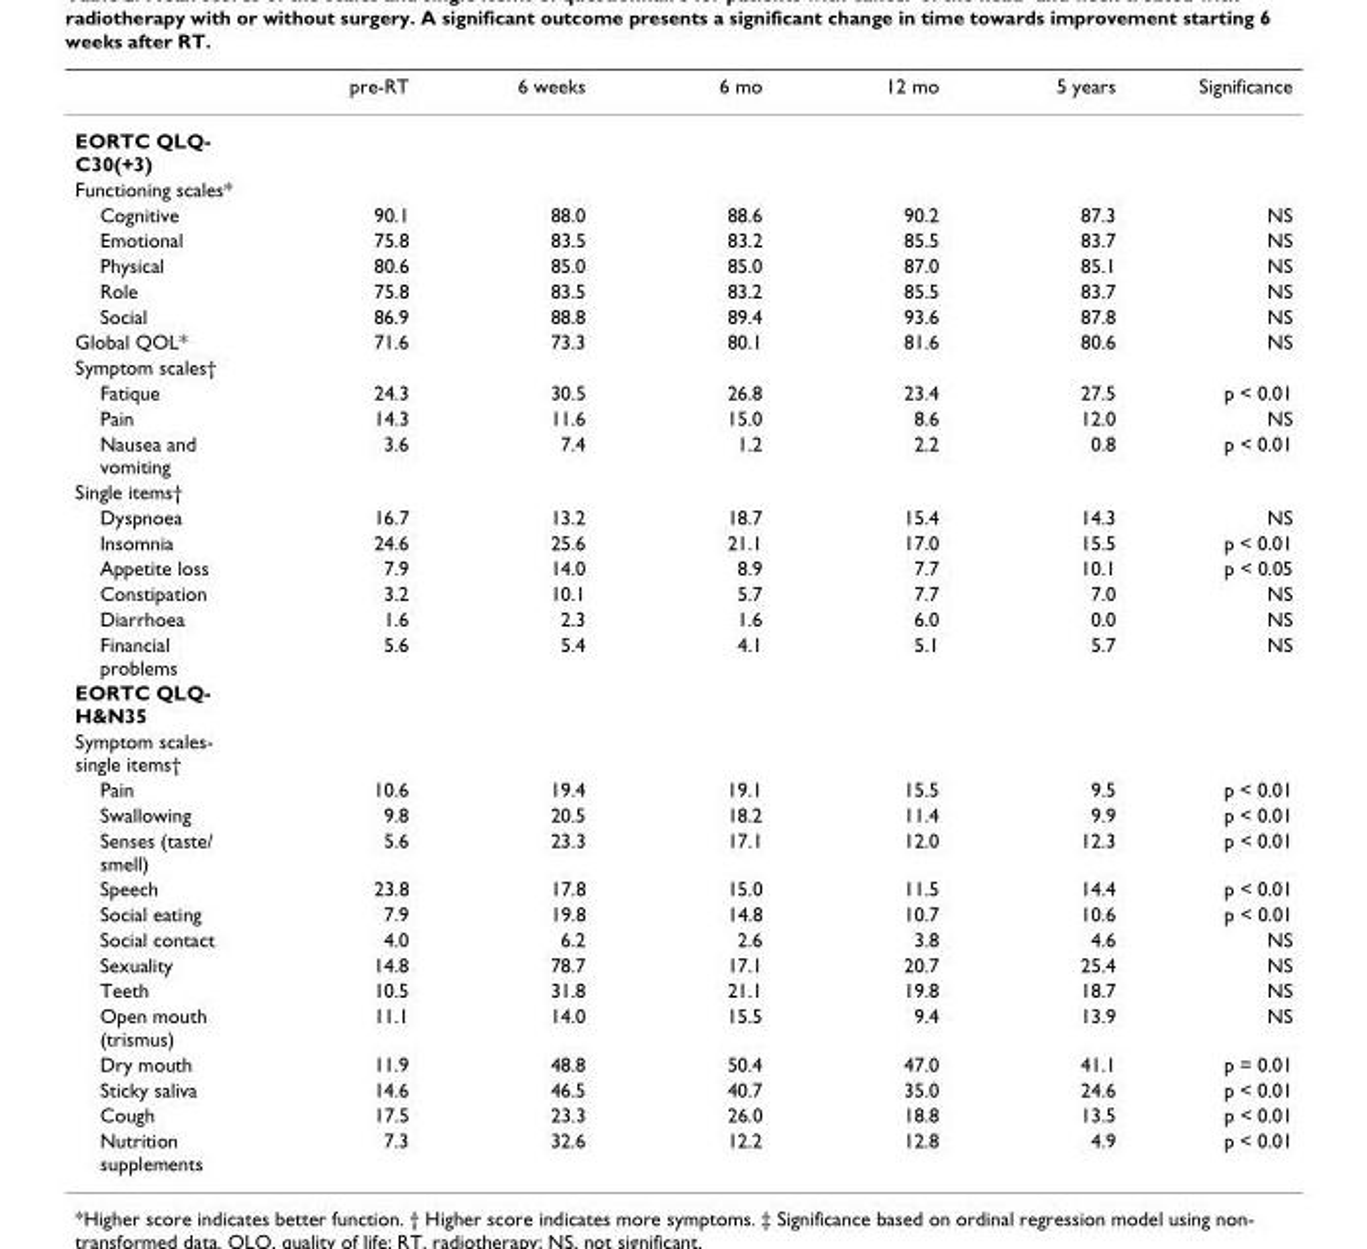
<table><thead><tr><td></td><td>pre-RT</td><td>6 weeks</td><td>6 mo</td><td>12 mo</td><td>5 years</td><td>Significance</td></tr></thead><tbody><tr><td colspan="7">EORTC QLQ- C30(+3)</td></tr><tr><td colspan="7">Functioning scales*</td></tr><tr><td>Cognitive</td><td>90.1</td><td>88.0</td><td>88.6</td><td>90.2</td><td>87.3</td><td>NS</td></tr><tr><td>Emotional</td><td>75.8</td><td>83.5</td><td>83.2</td><td>85.5</td><td>83.7</td><td>NS</td></tr><tr><td>Physical</td><td>80.6</td><td>85.0</td><td>85.0</td><td>87.0</td><td>85.1</td><td>NS</td></tr><tr><td>Role</td><td>75.8</td><td>83.5</td><td>83.2</td><td>85.5</td><td>83.7</td><td>NS</td></tr><tr><td>Social</td><td>86.9</td><td>88.8</td><td>89.4</td><td>93.6</td><td>87.8</td><td>NS</td></tr><tr><td>Global QOL*</td><td>71.6</td><td>73.3</td><td>80.1</td><td>81.6</td><td>80.6</td><td>NS</td></tr><tr><td colspan="7">Symptom scales†</td></tr><tr><td>Fatique</td><td>24.3</td><td>30.5</td><td>26.8</td><td>23.4</td><td>27.5</td><td>p &lt; 0.01</td></tr><tr><td>Pain</td><td>14.3</td><td>11.6</td><td>15.0</td><td>8.6</td><td>12.0</td><td>NS</td></tr><tr><td>Nausea and vomiting</td><td>3.6</td><td>7.4</td><td>1.2</td><td>2.2</td><td>0.8</td><td>p &lt; 0.01</td></tr><tr><td colspan="7">Single items†</td></tr><tr><td>Dyspnoea</td><td>16.7</td><td>13.2</td><td>18.7</td><td>15.4</td><td>14.3</td><td>NS</td></tr><tr><td>Insomnia</td><td>24.6</td><td>25.6</td><td>21.1</td><td>17.0</td><td>15.5</td><td>p &lt; 0.01</td></tr><tr><td>Appetite loss</td><td>7.9</td><td>14.0</td><td>8.9</td><td>7.7</td><td>10.1</td><td>p &lt; 0.05</td></tr><tr><td>Constipation</td><td>3.2</td><td>10.1</td><td>5.7</td><td>7.7</td><td>7.0</td><td>NS</td></tr><tr><td>Diarrhoea</td><td>1.6</td><td>2.3</td><td>1.6</td><td>6.0</td><td>0.0</td><td>NS</td></tr><tr><td>Financial problems</td><td>5.6</td><td>5.4</td><td>4.1</td><td>5.1</td><td>5.7</td><td>NS</td></tr><tr><td colspan="7">EORTC QLQ- H&amp;N35</td></tr><tr><td colspan="7">Symptom scales- single items†</td></tr><tr><td>Pain</td><td>10.6</td><td>19.4</td><td>19.1</td><td>15.5</td><td>9.5</td><td>p &lt; 0.01</td></tr><tr><td>Swallowing</td><td>9.8</td><td>20.5</td><td>18.2</td><td>11.4</td><td>9.9</td><td>p &lt; 0.01</td></tr><tr><td>Senses (taste/ smell)</td><td>5.6</td><td>23.3</td><td>17.1</td><td>12.0</td><td>12.3</td><td>p &lt; 0.01</td></tr><tr><td>Speech</td><td>23.8</td><td>17.8</td><td>15.0</td><td>11.5</td><td>14.4</td><td>p &lt; 0.01</td></tr><tr><td>Social eating</td><td>7.9</td><td>19.8</td><td>14.8</td><td>10.7</td><td>10.6</td><td>p &lt; 0.01</td></tr><tr><td>Social contact</td><td>4.0</td><td>6.2</td><td>2.6</td><td>3.8</td><td>4.6</td><td>NS</td></tr><tr><td>Sexuality</td><td>14.8</td><td>78.7</td><td>17.1</td><td>20.7</td><td>25.4</td><td>NS</td></tr><tr><td>Teeth</td><td>10.5</td><td>31.8</td><td>21.1</td><td>19.8</td><td>18.7</td><td>NS</td></tr><tr><td>Open mouth (trismus)</td><td>11.1</td><td>14.0</td><td>15.5</td><td>9.4</td><td>13.9</td><td>NS</td></tr><tr><td>Dry mouth</td><td>11.9</td><td>48.8</td><td>50.4</td><td>47.0</td><td>41.1</td><td>p = 0.01</td></tr><tr><td>Sticky saliva</td><td>14.6</td><td>46.5</td><td>40.7</td><td>35.0</td><td>24.6</td><td>p &lt; 0.01</td></tr><tr><td>Cough</td><td>17.5</td><td>23.3</td><td>26.0</td><td>18.8</td><td>13.5</td><td>p &lt; 0.01</td></tr><tr><td>Nutrition supplements</td><td>7.3</td><td>32.6</td><td>12.2</td><td>12.8</td><td>4.9</td><td>p &lt; 0.01</td></tr></tbody></table>